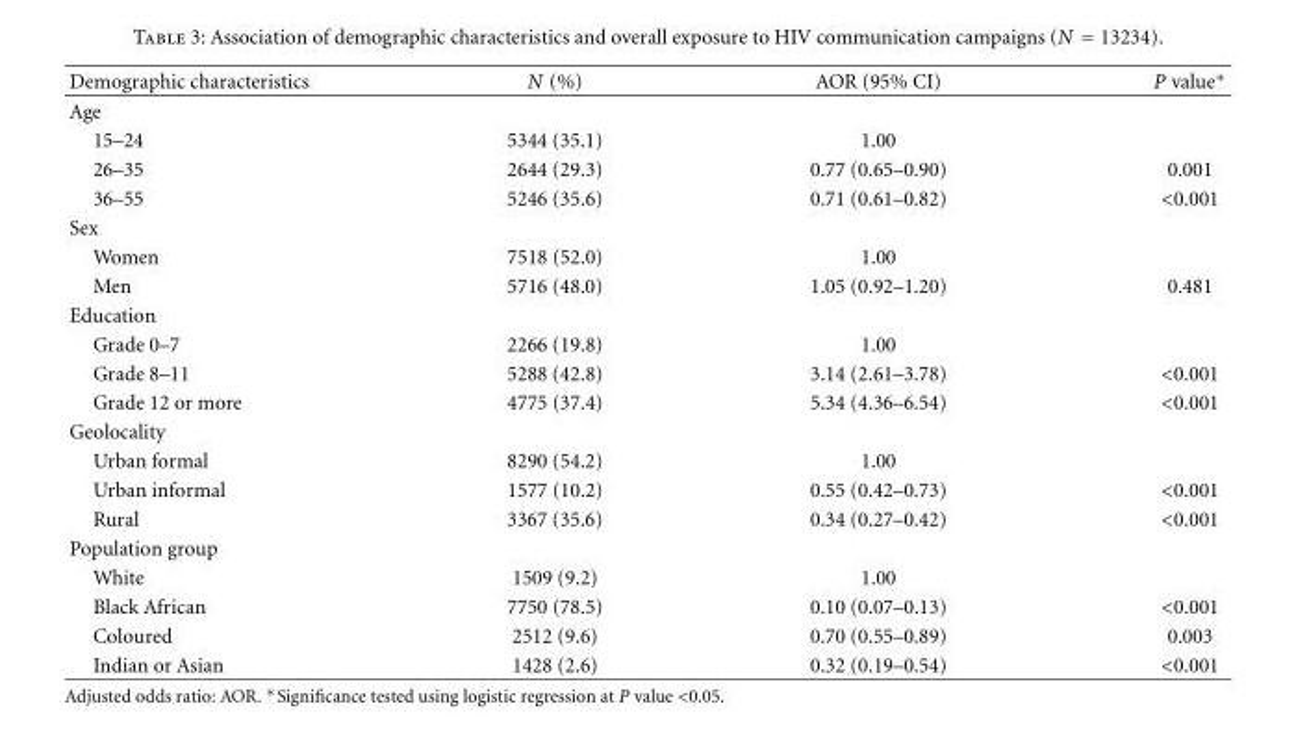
<table><thead><tr><td>Demographic characteristics</td><td>N (%)</td><td>AOR (95% CI)</td><td>P value∗</td></tr></thead><tbody><tr><td colspan="4">Age</td></tr><tr><td>15–24</td><td>5344 (35.1)</td><td>1.00</td><td></td></tr><tr><td>26–35</td><td>2644 (29.3)</td><td>0.77 (0.65–0.90)</td><td>0.001</td></tr><tr><td>36–55</td><td>5246 (35.6)</td><td>0.71 (0.61–0.82)</td><td>&lt;0.001</td></tr><tr><td colspan="4">Sex</td></tr><tr><td>Women</td><td>7518 (52.0)</td><td>1.00</td><td></td></tr><tr><td>Men</td><td>5716 (48.0)</td><td>1.05 (0.92–1.20)</td><td>0.481</td></tr><tr><td colspan="4">Education</td></tr><tr><td>Grade 0–7</td><td>2266 (19.8)</td><td>1.00</td><td></td></tr><tr><td>Grade 8–11</td><td>5288 (42.8)</td><td>3.14 (2.61–3.78)</td><td>&lt;0.001</td></tr><tr><td>Grade 12 or more</td><td>4775 (37.4)</td><td>5.34 (4.36–6.54)</td><td>&lt;0.001</td></tr><tr><td colspan="4">Geolocality</td></tr><tr><td>Urban formal</td><td>8290 (54.2)</td><td>1.00</td><td></td></tr><tr><td>Urban informal</td><td>1577 (10.2)</td><td>0.55 (0.42–0.73)</td><td>&lt;0.001</td></tr><tr><td>Rural</td><td>3367 (35.6)</td><td>0.34 (0.27–0.42)</td><td>&lt;0.001</td></tr><tr><td colspan="4">Population group</td></tr><tr><td>White</td><td>1509 (9.2)</td><td>1.00</td><td></td></tr><tr><td>Black African</td><td>7750 (78.5)</td><td>0.10 (0.07–0.13)</td><td>&lt;0.001</td></tr><tr><td>Coloured</td><td>2512 (9.6)</td><td>0.70 (0.55–0.89)</td><td>0.003</td></tr><tr><td>Indian or Asian</td><td>1428 (2.6)</td><td>0.32 (0.19–0.54)</td><td>&lt;0.001</td></tr></tbody></table>